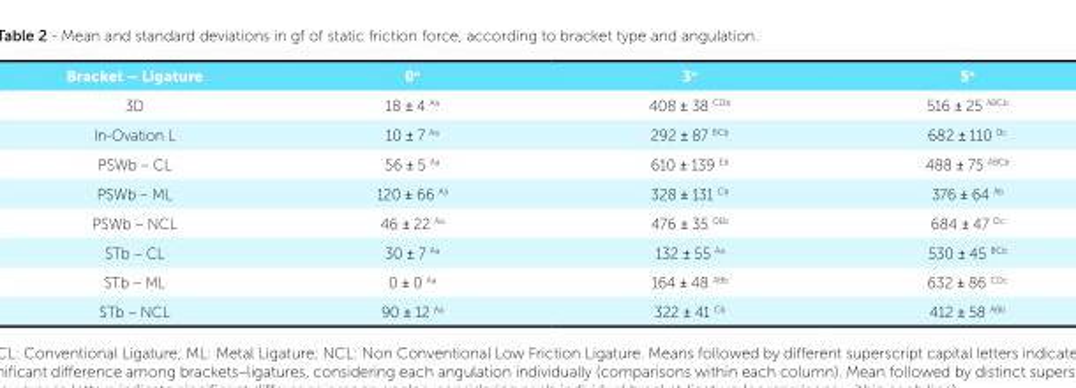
<table><tbody><tr><td>Bracket – Ligature</td><td>0<sup>o</sup></td><td>3<sup>o</sup></td><td>5<sup>o</sup></td></tr><tr><td>3D</td><td>18 ± 4 <sup>Aa</sup></td><td>408 ± 38 <sup>CDb</sup></td><td>516 ± 25 <sup>ABCb</sup></td></tr><tr><td>In-Ovation L</td><td>10 ± 7 <sup>Aa</sup></td><td>292 ± 87 <sup>BCb</sup></td><td>682 ± 110 <sup>Dc</sup></td></tr><tr><td>PSWb – CL</td><td>56 ± 5 <sup>Aa</sup></td><td>610 ± 139 <sup>Eb</sup></td><td>488 ± 75 <sup>ABCb</sup></td></tr><tr><td>PSWb – ML</td><td>120 ± 66 <sup>Aa</sup></td><td>328 ± 131 <sup>Cb</sup></td><td>376 ± 64 <sup>Ab</sup></td></tr><tr><td>PSWb – NCL</td><td>46 ± 22 <sup>Aa</sup></td><td>476 ± 35 <sup>DEb</sup></td><td>684 ± 47 <sup>Dc</sup></td></tr><tr><td>STb – CL</td><td>30 ± 7 <sup>Aa</sup></td><td>132 ± 55 <sup>Aa</sup></td><td>530 ± 45 <sup>BCb</sup></td></tr><tr><td>STb – ML</td><td>0 ± 0 <sup>Aa</sup></td><td>164 ± 48 <sup>ABb</sup></td><td>632 ± 86 <sup>CDc</sup></td></tr><tr><td>STb – NCL</td><td>90 ± 12 <sup>Aa</sup></td><td>322 ± 41 <sup>Cb</sup></td><td>412 ± 58 <sup>ABb</sup></td></tr></tbody></table>